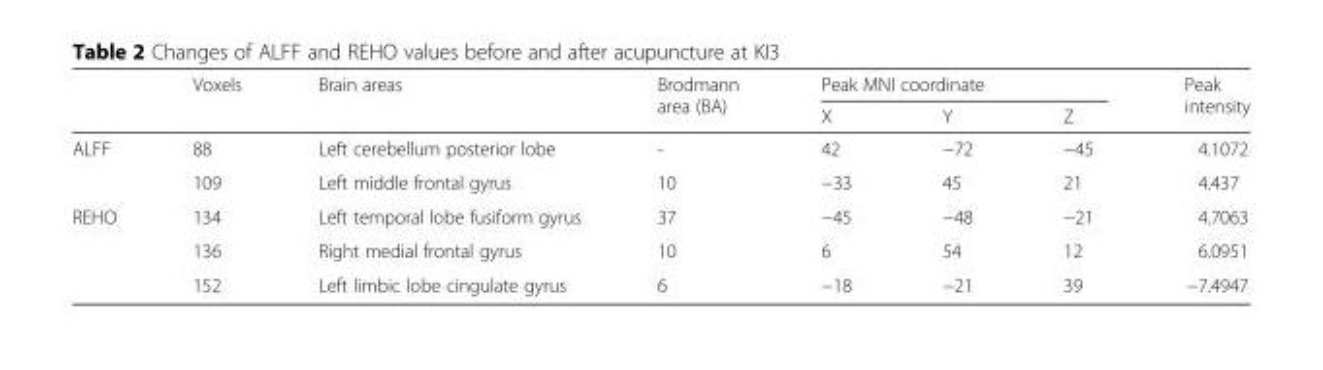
<table><thead><tr><td rowspan="2"></td><td rowspan="2">Voxels</td><td rowspan="2">Brain areas</td><td rowspan="2">Brodmann area (BA)</td><td colspan="3">Peak MNI coordinate</td><td rowspan="2">Peak intensity</td></tr><tr><td>X</td><td>Y</td><td>Z</td></tr></thead><tbody><tr><td rowspan="2">ALFF</td><td>88</td><td>Left cerebellum posterior lobe</td><td>-</td><td>42</td><td>−72</td><td>−45</td><td>4.1072</td></tr><tr><td>109</td><td>Left middle frontal gyrus</td><td>10</td><td>−33</td><td>45</td><td>21</td><td>4.437</td></tr><tr><td rowspan="3">REHO</td><td>134</td><td>Left temporal lobe fusiform gyrus</td><td>37</td><td>−45</td><td>−48</td><td>−21</td><td>4.7063</td></tr><tr><td>136</td><td>Right medial frontal gyrus</td><td>10</td><td>6</td><td>54</td><td>12</td><td>6.0951</td></tr><tr><td>152</td><td>Left limbic lobe cingulate gyrus</td><td>6</td><td>−18</td><td>−21</td><td>39</td><td>−7.4947</td></tr></tbody></table>